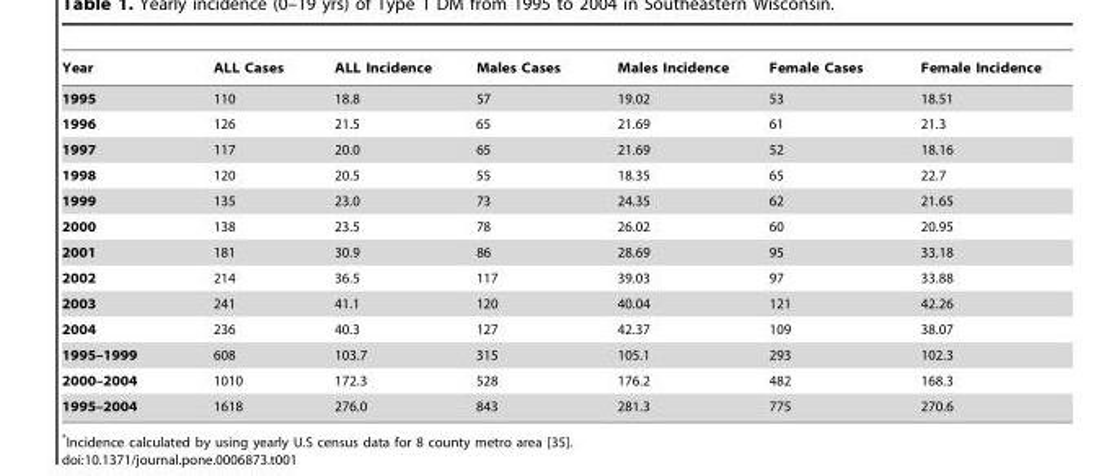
<table><thead><tr><td>Year</td><td>ALL Cases</td><td>ALL Incidence</td><td>Males Cases</td><td>Males Incidence</td><td>Female Cases</td><td>Female Incidence</td></tr></thead><tbody><tr><td>1995</td><td>110</td><td>18.8</td><td>57</td><td>19.02</td><td>53</td><td>18.51</td></tr><tr><td>1996</td><td>126</td><td>21.5</td><td>65</td><td>21.69</td><td>61</td><td>21.3</td></tr><tr><td>1997</td><td>117</td><td>20.0</td><td>65</td><td>21.69</td><td>52</td><td>18.16</td></tr><tr><td>1998</td><td>120</td><td>20.5</td><td>55</td><td>18.35</td><td>65</td><td>22.7</td></tr><tr><td>1999</td><td>135</td><td>23.0</td><td>73</td><td>24.35</td><td>62</td><td>21.65</td></tr><tr><td>2000</td><td>138</td><td>23.5</td><td>78</td><td>26.02</td><td>60</td><td>20.95</td></tr><tr><td>2001</td><td>181</td><td>30.9</td><td>86</td><td>28.69</td><td>95</td><td>33.18</td></tr><tr><td>2002</td><td>214</td><td>36.5</td><td>117</td><td>39.03</td><td>97</td><td>33.88</td></tr><tr><td>2003</td><td>241</td><td>41.1</td><td>120</td><td>40.04</td><td>121</td><td>42.26</td></tr><tr><td>2004</td><td>236</td><td>40.3</td><td>127</td><td>42.37</td><td>109</td><td>38.07</td></tr><tr><td>1995–1999</td><td>608</td><td>103.7</td><td>315</td><td>105.1</td><td>293</td><td>102.3</td></tr><tr><td>2000–2004</td><td>1010</td><td>172.3</td><td>528</td><td>176.2</td><td>482</td><td>168.3</td></tr><tr><td>1995–2004</td><td>1618</td><td>276.0</td><td>843</td><td>281.3</td><td>775</td><td>270.6</td></tr></tbody></table>